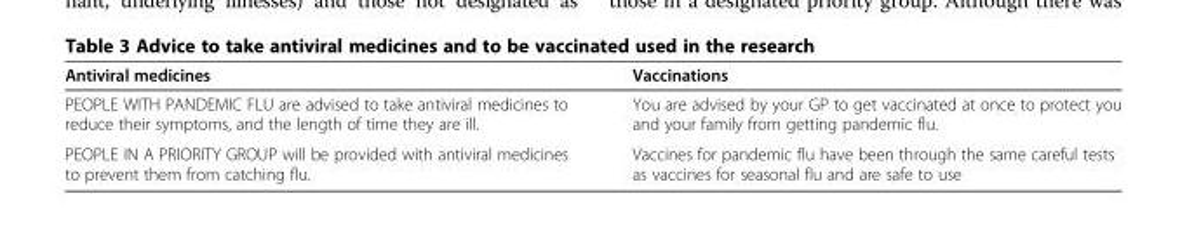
<table><thead><tr><td>Antiviral medicines</td><td>Vaccinations</td></tr></thead><tbody><tr><td>PEOPLE WITH PANDEMIC FLU are advised to take antiviral medicines to reduce their symptoms, and the length of time they are ill.</td><td>You are advised by your GP to get vaccinated at once to protect you and your family from getting pandemic flu.</td></tr><tr><td>PEOPLE IN A PRIORITY GROUP will be provided with antiviral medicines to prevent them from catching flu.</td><td>Vaccines for pandemic flu have been through the same careful tests as vaccines for seasonal flu and are safe to use</td></tr></tbody></table>